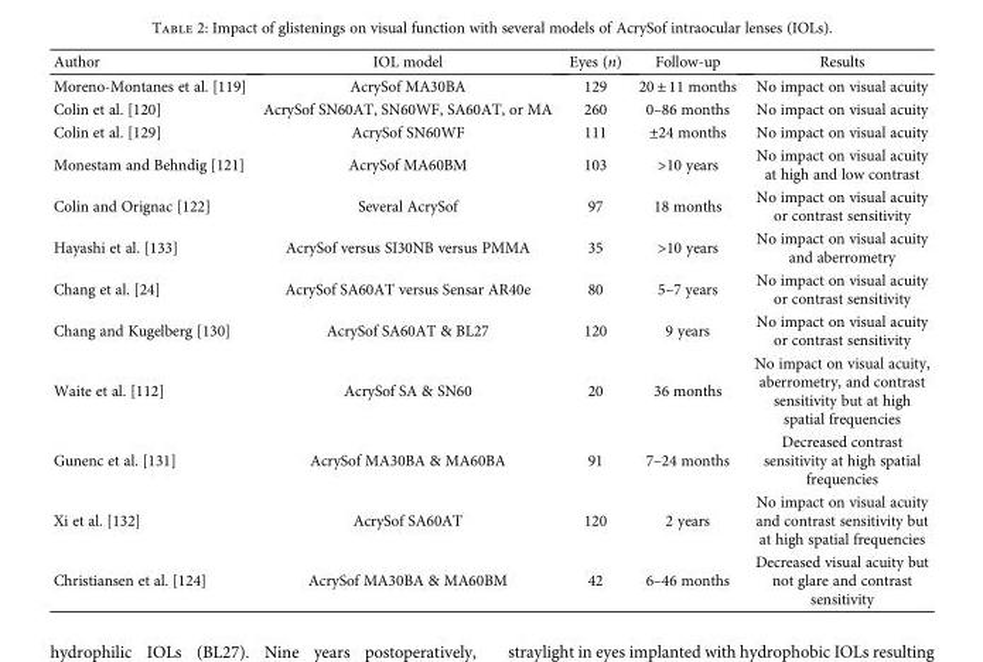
<table><thead><tr><td>Author</td><td>IOL model</td><td>Eyes (n)</td><td>Follow-up</td><td>Results</td></tr></thead><tbody><tr><td>Moreno-Montanes et al. [119]</td><td>AcrySof MA30BA</td><td>129</td><td>20 ± 11 months</td><td>No impact on visual acuity</td></tr><tr><td>Colin et al. [120]</td><td>AcrySof SN60AT, SN60WF, SA60AT, or MA</td><td>260</td><td>0–86 months</td><td>No impact on visual acuity</td></tr><tr><td>Colin et al. [129]</td><td>AcrySof SN60WF</td><td>111</td><td>±24 months</td><td>No impact on visual acuity</td></tr><tr><td>Monestam and Behndig [121]</td><td>AcrySof MA60BM</td><td>103</td><td>&gt;10 years</td><td>No impact on visual acuity at high and low contrast</td></tr><tr><td>Colin and Orignac [122]</td><td>Several AcrySof</td><td>97</td><td>18 months</td><td>No impact on visual acuity or contrast sensitivity</td></tr><tr><td>Hayashi et al. [133]</td><td>AcrySof versus SI30NB versus PMMA</td><td>35</td><td>&gt;10 years</td><td>No impact on visual acuity and aberrometry</td></tr><tr><td>Chang et al. [24]</td><td>AcrySof SA60AT versus Sensar AR40e</td><td>80</td><td>5–7 years</td><td>No impact on visual acuity or contrast sensitivity</td></tr><tr><td>Chang and Kugelberg [130]</td><td>AcrySof SA60AT &amp; BL27</td><td>120</td><td>9 years</td><td>No impact on visual acuity or contrast sensitivity</td></tr><tr><td>Waite et al. [112]</td><td>AcrySof SA &amp; SN60</td><td>20</td><td>36 months</td><td>No impact on visual acuity, aberrometry, and contrast sensitivity but at high spatial frequencies</td></tr><tr><td>Gunenc et al. [131]</td><td>AcrySof MA30BA &amp; MA60BA</td><td>91</td><td>7–24 months</td><td>Decreased contrast sensitivity at high spatial frequencies</td></tr><tr><td>Xi et al. [132]</td><td>AcrySof SA60AT</td><td>120</td><td>2 years</td><td>No impact on visual acuity and contrast sensitivity but at high spatial frequencies</td></tr><tr><td>Christiansen et al. [124]</td><td>AcrySof MA30BA &amp; MA60BM</td><td>42</td><td>6–46 months</td><td>Decreased visual acuity but not glare and contrast sensitivity</td></tr></tbody></table>